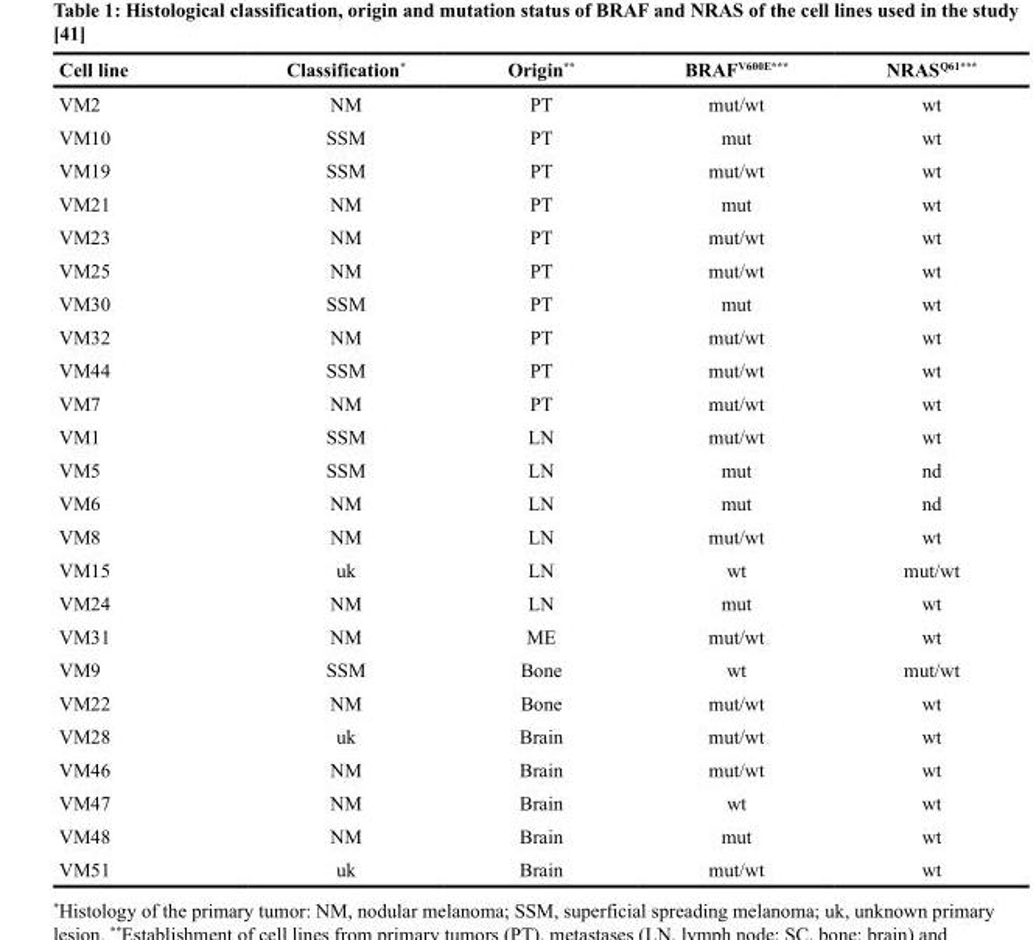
<table><thead><tr><td>Cell line</td><td>Classification*</td><td>Origin**</td><td>BRAF<sup>V600E***</sup></td><td>NRAS<sup>Q61***</sup></td></tr></thead><tbody><tr><td>VM2</td><td>NM</td><td>PT</td><td>mut/wt</td><td>wt</td></tr><tr><td>VM10</td><td>SSM</td><td>PT</td><td>mut</td><td>wt</td></tr><tr><td>VM19</td><td>SSM</td><td>PT</td><td>mut/wt</td><td>wt</td></tr><tr><td>VM21</td><td>NM</td><td>PT</td><td>mut</td><td>wt</td></tr><tr><td>VM23</td><td>NM</td><td>PT</td><td>mut/wt</td><td>wt</td></tr><tr><td>VM25</td><td>NM</td><td>PT</td><td>mut/wt</td><td>wt</td></tr><tr><td>VM30</td><td>SSM</td><td>PT</td><td>mut</td><td>wt</td></tr><tr><td>VM32</td><td>NM</td><td>PT</td><td>mut/wt</td><td>wt</td></tr><tr><td>VM44</td><td>SSM</td><td>PT</td><td>mut/wt</td><td>wt</td></tr><tr><td>VM7</td><td>NM</td><td>PT</td><td>mut/wt</td><td>wt</td></tr><tr><td>VM1</td><td>SSM</td><td>LN</td><td>mut/wt</td><td>wt</td></tr><tr><td>VM5</td><td>SSM</td><td>LN</td><td>mut</td><td>nd</td></tr><tr><td>VM6</td><td>NM</td><td>LN</td><td>mut</td><td>nd</td></tr><tr><td>VM8</td><td>NM</td><td>LN</td><td>mut/wt</td><td>wt</td></tr><tr><td>VM15</td><td>uk</td><td>LN</td><td>wt</td><td>mut/wt</td></tr><tr><td>VM24</td><td>NM</td><td>LN</td><td>mut</td><td>wt</td></tr><tr><td>VM31</td><td>NM</td><td>ME</td><td>mut/wt</td><td>wt</td></tr><tr><td>VM9</td><td>SSM</td><td>Bone</td><td>wt</td><td>mut/wt</td></tr><tr><td>VM22</td><td>NM</td><td>Bone</td><td>mut/wt</td><td>wt</td></tr><tr><td>VM28</td><td>uk</td><td>Brain</td><td>mut/wt</td><td>wt</td></tr><tr><td>VM46</td><td>NM</td><td>Brain</td><td>mut/wt</td><td>wt</td></tr><tr><td>VM47</td><td>NM</td><td>Brain</td><td>wt</td><td>wt</td></tr><tr><td>VM48</td><td>NM</td><td>Brain</td><td>mut</td><td>wt</td></tr><tr><td>VM51</td><td>uk</td><td>Brain</td><td>mut/wt</td><td>wt</td></tr></tbody></table>